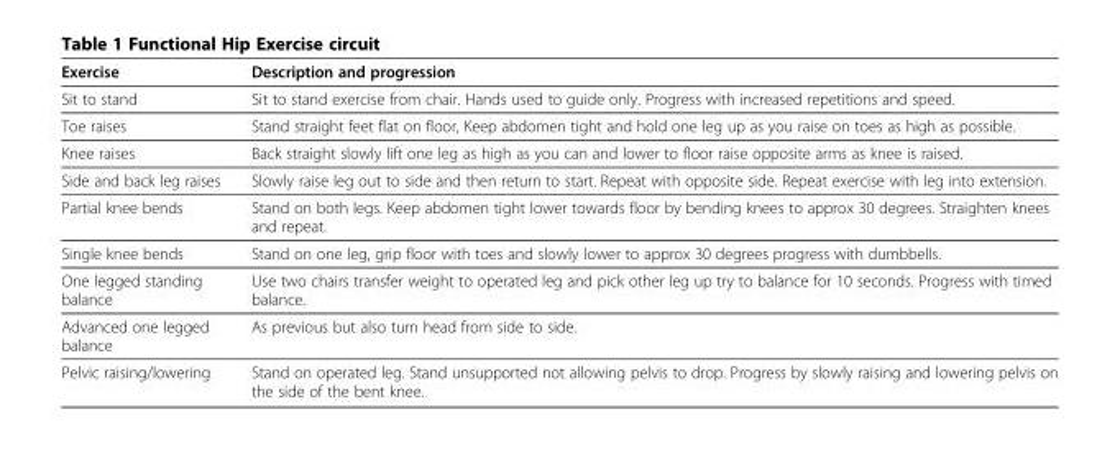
<table><thead><tr><td>Exercise</td><td>Description and progression</td></tr></thead><tbody><tr><td>Sit to stand</td><td>Sit to stand exercise from chair. Hands used to guide only. Progress with increased repetitions and speed.</td></tr><tr><td>Toe raises</td><td>Stand straight feet flat on floor, Keep abdomen tight and hold one leg up as you raise on toes as high as possible.</td></tr><tr><td>Knee raises</td><td>Back straight slowly lift one leg as high as you can and lower to floor raise opposite arms as knee is raised.</td></tr><tr><td>Side and back leg raises</td><td>Slowly raise leg out to side and then return to start. Repeat with opposite side. Repeat exercise with leg into extension.</td></tr><tr><td>Partial knee bends</td><td>Stand on both legs. Keep abdomen tight lower towards floor by bending knees to approx 30 degrees. Straighten knees and repeat.</td></tr><tr><td>Single knee bends</td><td>Stand on one leg, grip floor with toes and slowly lower to approx 30 degrees progress with dumbbells.</td></tr><tr><td>One legged standing balance</td><td>Use two chairs transfer weight to operated leg and pick other leg up try to balance for 10 seconds. Progress with timed balance.</td></tr><tr><td>Advanced one legged balance</td><td>As previous but also turn head from side to side.</td></tr><tr><td>Pelvic raising/lowering</td><td>Stand on operated leg. Stand unsupported not allowing pelvis to drop. Progress by slowly raising and lowering pelvis on the side of the bent knee.</td></tr></tbody></table>